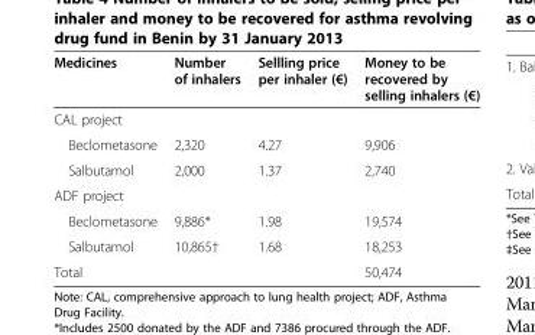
<table><thead><tr><td>Medicines</td><td>Number of inhalers</td><td>Sellling price per inhaler (€)</td><td>Money to be recovered by selling inhalers (€)</td></tr></thead><tbody><tr><td colspan="4">CAL project</td></tr><tr><td>Beclometasone</td><td>2,320</td><td>4.27</td><td>9,906</td></tr><tr><td>Salbutamol</td><td>2,000</td><td>1.37</td><td>2,740</td></tr><tr><td colspan="4">ADF project</td></tr><tr><td>Beclometasone</td><td>9,886*</td><td>1.98</td><td>19,574</td></tr><tr><td>Salbutamol</td><td>10,865†</td><td>1.68</td><td>18,253</td></tr><tr><td>Total</td><td></td><td></td><td>50,474</td></tr></tbody></table>